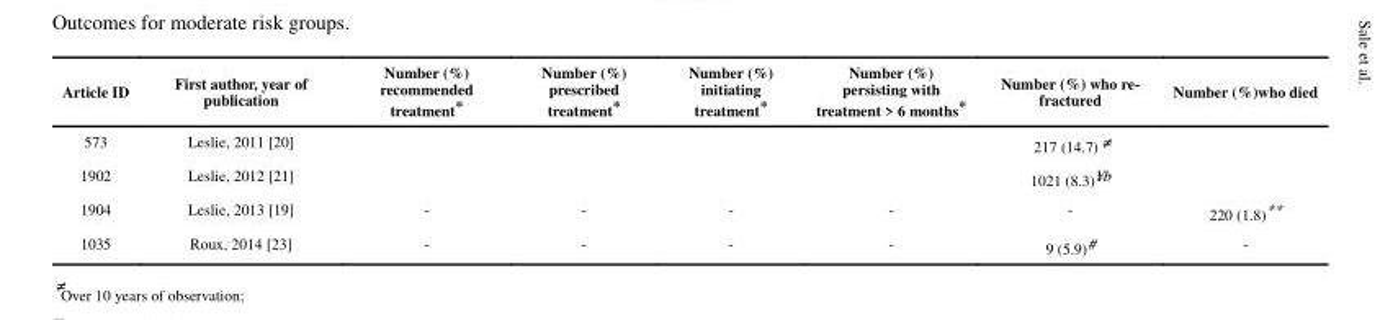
<table><thead><tr><td>Article ID</td><td>First author, year of publication</td><td>Number (%) recommended treatment*</td><td>Number (%) prescribed treatment*</td><td>Number (%) initiating treatment*</td><td>Number (%) persisting with treatment &gt; 6 months*</td><td>Number (%) who re- fractured</td><td>Number (%)who died</td></tr></thead><tbody><tr><td>573</td><td>Leslie, 2011 [20]</td><td></td><td></td><td></td><td></td><td>217 (14.7)≠</td><td></td></tr><tr><td>1902</td><td>Leslie, 2012 [21]</td><td></td><td></td><td></td><td></td><td>1021 (8.3)¥<sup>b</sup></td><td></td></tr><tr><td>1904</td><td>Leslie, 2013 [19]</td><td>-</td><td>-</td><td>-</td><td>-</td><td>-</td><td>220 (1.8)**</td></tr><tr><td>1035</td><td>Roux, 2014 [23]</td><td>-</td><td>-</td><td>-</td><td>-</td><td>9 (5.9)#</td><td>-</td></tr></tbody></table>